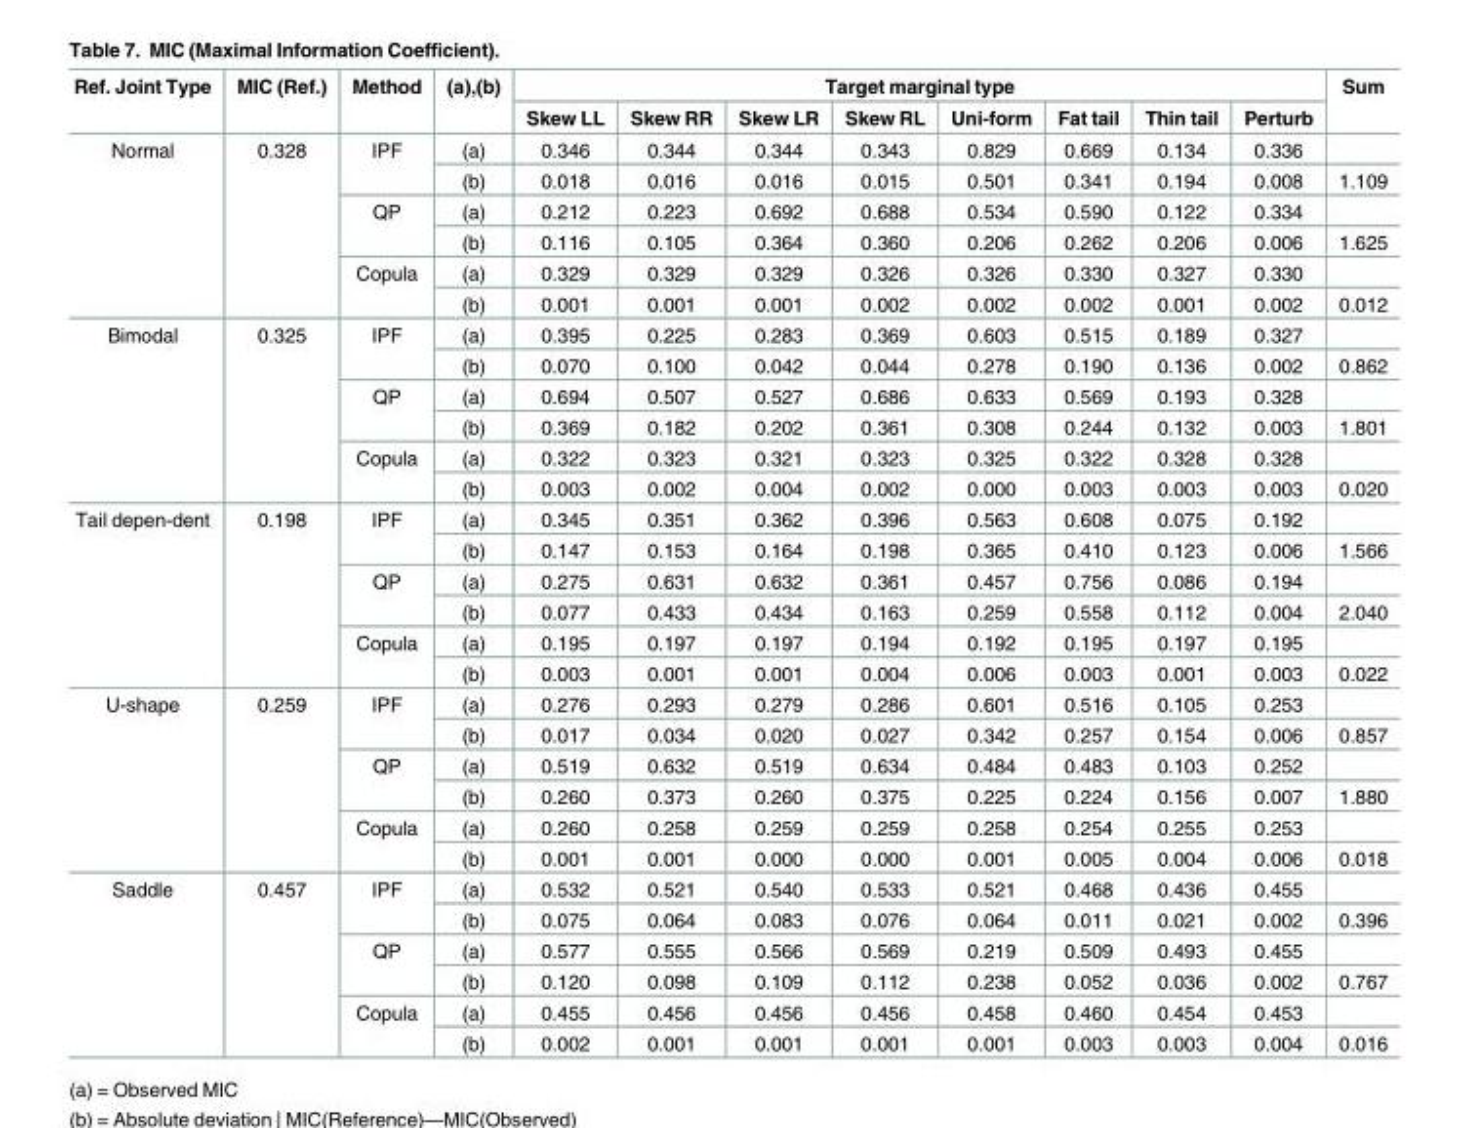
<table><thead><tr><td rowspan="2">Ref. Joint Type</td><td rowspan="2">MIC (Ref.)</td><td rowspan="2">Method</td><td rowspan="2">(a),(b)</td><td colspan="8">Target marginal type</td><td rowspan="2">Sum</td></tr><tr><td>Skew LL</td><td>Skew RR</td><td>Skew LR</td><td>Skew RL</td><td>Uni-form</td><td>Fat tail</td><td>Thin tail</td><td>Perturb</td></tr></thead><tbody><tr><td rowspan="6">Normal</td><td rowspan="6">0.328</td><td rowspan="2">IPF</td><td>(a)</td><td>0.346</td><td>0.344</td><td>0.344</td><td>0.343</td><td>0.829</td><td>0.669</td><td>0.134</td><td>0.336</td><td></td></tr><tr><td>(b)</td><td>0.018</td><td>0.016</td><td>0.016</td><td>0.015</td><td>0.501</td><td>0.341</td><td>0.194</td><td>0.008</td><td>1.109</td></tr><tr><td rowspan="2">QP</td><td>(a)</td><td>0.212</td><td>0.223</td><td>0.692</td><td>0.688</td><td>0.534</td><td>0.590</td><td>0.122</td><td>0.334</td><td></td></tr><tr><td>(b)</td><td>0.116</td><td>0.105</td><td>0.364</td><td>0.360</td><td>0.206</td><td>0.262</td><td>0.206</td><td>0.006</td><td>1.625</td></tr><tr><td rowspan="2">Copula</td><td>(a)</td><td>0.329</td><td>0.329</td><td>0.329</td><td>0.326</td><td>0.326</td><td>0.330</td><td>0.327</td><td>0.330</td><td></td></tr><tr><td>(b)</td><td>0.001</td><td>0.001</td><td>0.001</td><td>0.002</td><td>0.002</td><td>0.002</td><td>0.001</td><td>0.002</td><td>0.012</td></tr><tr><td rowspan="6">Bimodal</td><td rowspan="6">0.325</td><td rowspan="2">IPF</td><td>(a)</td><td>0.395</td><td>0.225</td><td>0.283</td><td>0.369</td><td>0.603</td><td>0.515</td><td>0.189</td><td>0.327</td><td></td></tr><tr><td>(b)</td><td>0.070</td><td>0.100</td><td>0.042</td><td>0.044</td><td>0.278</td><td>0.190</td><td>0.136</td><td>0.002</td><td>0.862</td></tr><tr><td rowspan="2">QP</td><td>(a)</td><td>0.694</td><td>0.507</td><td>0.527</td><td>0.686</td><td>0.633</td><td>0.569</td><td>0.193</td><td>0.328</td><td></td></tr><tr><td>(b)</td><td>0.369</td><td>0.182</td><td>0.202</td><td>0.361</td><td>0.308</td><td>0.244</td><td>0.132</td><td>0.003</td><td>1.801</td></tr><tr><td rowspan="2">Copula</td><td>(a)</td><td>0.322</td><td>0.323</td><td>0.321</td><td>0.323</td><td>0.325</td><td>0.322</td><td>0.328</td><td>0.328</td><td></td></tr><tr><td>(b)</td><td>0.003</td><td>0.002</td><td>0.004</td><td>0.002</td><td>0.000</td><td>0.003</td><td>0.003</td><td>0.003</td><td>0.020</td></tr><tr><td rowspan="6">Tail depen-dent</td><td rowspan="6">0.198</td><td rowspan="2">IPF</td><td>(a)</td><td>0.345</td><td>0.351</td><td>0.362</td><td>0.396</td><td>0.563</td><td>0.608</td><td>0.075</td><td>0.192</td><td></td></tr><tr><td>(b)</td><td>0.147</td><td>0.153</td><td>0.164</td><td>0.198</td><td>0.365</td><td>0.410</td><td>0.123</td><td>0.006</td><td>1.566</td></tr><tr><td rowspan="2">QP</td><td>(a)</td><td>0.275</td><td>0.631</td><td>0.632</td><td>0.361</td><td>0.457</td><td>0.756</td><td>0.086</td><td>0.194</td><td></td></tr><tr><td>(b)</td><td>0.077</td><td>0.433</td><td>0.434</td><td>0.163</td><td>0.259</td><td>0.558</td><td>0.112</td><td>0.004</td><td>2.040</td></tr><tr><td rowspan="2">Copula</td><td>(a)</td><td>0.195</td><td>0.197</td><td>0.197</td><td>0.194</td><td>0.192</td><td>0.195</td><td>0.197</td><td>0.195</td><td></td></tr><tr><td>(b)</td><td>0.003</td><td>0.001</td><td>0.001</td><td>0.004</td><td>0.006</td><td>0.003</td><td>0.001</td><td>0.003</td><td>0.022</td></tr><tr><td rowspan="6">U-shape</td><td rowspan="6">0.259</td><td rowspan="2">IPF</td><td>(a)</td><td>0.276</td><td>0.293</td><td>0.279</td><td>0.286</td><td>0.601</td><td>0.516</td><td>0.105</td><td>0.253</td><td></td></tr><tr><td>(b)</td><td>0.017</td><td>0.034</td><td>0.020</td><td>0.027</td><td>0.342</td><td>0.257</td><td>0.154</td><td>0.006</td><td>0.857</td></tr><tr><td rowspan="2">QP</td><td>(a)</td><td>0.519</td><td>0.632</td><td>0.519</td><td>0.634</td><td>0.484</td><td>0.483</td><td>0.103</td><td>0.252</td><td></td></tr><tr><td>(b)</td><td>0.260</td><td>0.373</td><td>0.260</td><td>0.375</td><td>0.225</td><td>0.224</td><td>0.156</td><td>0.007</td><td>1.880</td></tr><tr><td rowspan="2">Copula</td><td>(a)</td><td>0.260</td><td>0.258</td><td>0.259</td><td>0.259</td><td>0.258</td><td>0.254</td><td>0.255</td><td>0.253</td><td></td></tr><tr><td>(b)</td><td>0.001</td><td>0.001</td><td>0.000</td><td>0.000</td><td>0.001</td><td>0.005</td><td>0.004</td><td>0.006</td><td>0.018</td></tr><tr><td rowspan="6">Saddle</td><td rowspan="6">0.457</td><td rowspan="2">IPF</td><td>(a)</td><td>0.532</td><td>0.521</td><td>0.540</td><td>0.533</td><td>0.521</td><td>0.468</td><td>0.436</td><td>0.455</td><td></td></tr><tr><td>(b)</td><td>0.075</td><td>0.064</td><td>0.083</td><td>0.076</td><td>0.064</td><td>0.011</td><td>0.021</td><td>0.002</td><td>0.396</td></tr><tr><td rowspan="2">QP</td><td>(a)</td><td>0.577</td><td>0.555</td><td>0.566</td><td>0.569</td><td>0.219</td><td>0.509</td><td>0.493</td><td>0.455</td><td></td></tr><tr><td>(b)</td><td>0.120</td><td>0.098</td><td>0.109</td><td>0.112</td><td>0.238</td><td>0.052</td><td>0.036</td><td>0.002</td><td>0.767</td></tr><tr><td rowspan="2">Copula</td><td>(a)</td><td>0.455</td><td>0.456</td><td>0.456</td><td>0.456</td><td>0.458</td><td>0.460</td><td>0.454</td><td>0.453</td><td></td></tr><tr><td>(b)</td><td>0.002</td><td>0.001</td><td>0.001</td><td>0.001</td><td>0.001</td><td>0.003</td><td>0.003</td><td>0.004</td><td>0.016</td></tr></tbody></table>